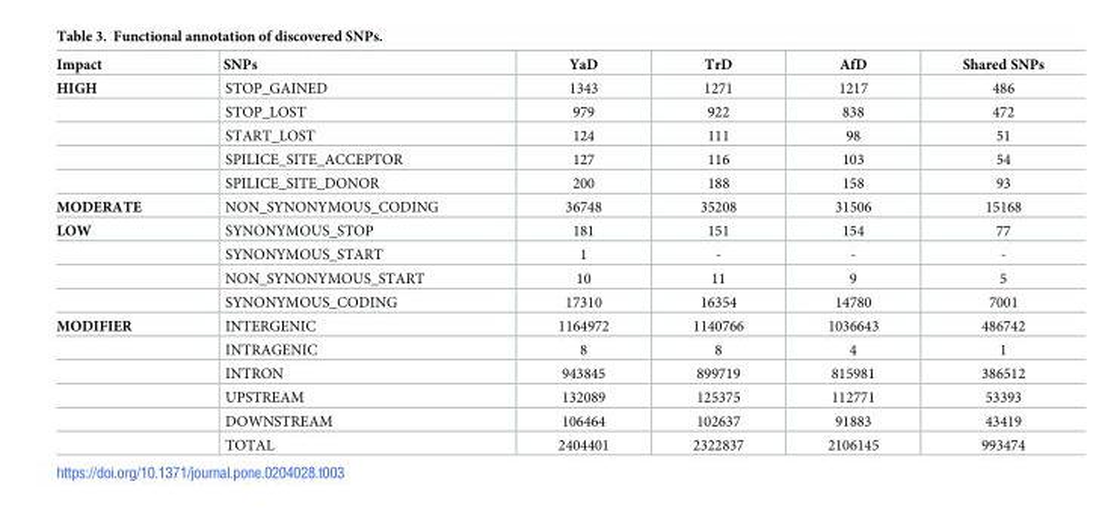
<table><thead><tr><td>Impact</td><td>SNPs</td><td>YaD</td><td>TrD</td><td>AfD</td><td>Shared SNPs</td></tr></thead><tbody><tr><td rowspan="5">HIGH</td><td>STOP_GAINED</td><td>1343</td><td>1271</td><td>1217</td><td>486</td></tr><tr><td>STOP_LOST</td><td>979</td><td>922</td><td>838</td><td>472</td></tr><tr><td>START_LOST</td><td>124</td><td>111</td><td>98</td><td>51</td></tr><tr><td>SPILICE_SITE_ACCEPTOR</td><td>127</td><td>116</td><td>103</td><td>54</td></tr><tr><td>SPILICE_SITE_DONOR</td><td>200</td><td>188</td><td>158</td><td>93</td></tr><tr><td>MODERATE</td><td>NON_SYNONYMOUS_CODING</td><td>36748</td><td>35208</td><td>31506</td><td>15168</td></tr><tr><td rowspan="4">LOW</td><td>SYNONYMOUS_STOP</td><td>181</td><td>151</td><td>154</td><td>77</td></tr><tr><td>SYNONYMOUS_START</td><td>1</td><td>-</td><td>-</td><td>-</td></tr><tr><td>NON_SYNONYMOUS_START</td><td>10</td><td>11</td><td>9</td><td>5</td></tr><tr><td>SYNONYMOUS_CODING</td><td>17310</td><td>16354</td><td>14780</td><td>7001</td></tr><tr><td rowspan="6">MODIFIER</td><td>INTERGENIC</td><td>1164972</td><td>1140766</td><td>1036643</td><td>486742</td></tr><tr><td>INTRAGENIC</td><td>8</td><td>8</td><td>4</td><td>1</td></tr><tr><td>INTRON</td><td>943845</td><td>899719</td><td>815981</td><td>386512</td></tr><tr><td>UPSTREAM</td><td>132089</td><td>125375</td><td>112771</td><td>53393</td></tr><tr><td>DOWNSTREAM</td><td>106464</td><td>102637</td><td>91883</td><td>43419</td></tr><tr><td>TOTAL</td><td>2404401</td><td>2322837</td><td>2106145</td><td>993474</td></tr></tbody></table>